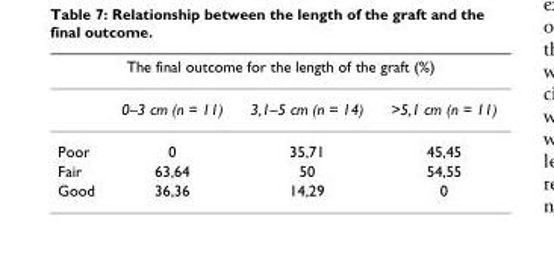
<table><thead><tr><td colspan="4">The final outcome for the length of the graft (%)</td></tr><tr><td></td><td>0–3 cm (n = 11)</td><td>3,1–5 cm (n = 14)</td><td>&gt;5,1 cm (n = 11)</td></tr></thead><tbody><tr><td>Poor</td><td>0</td><td>35,71</td><td>45,45</td></tr><tr><td>Fair</td><td>63,64</td><td>50</td><td>54,55</td></tr><tr><td>Good</td><td>36,36</td><td>14,29</td><td>0</td></tr></tbody></table>